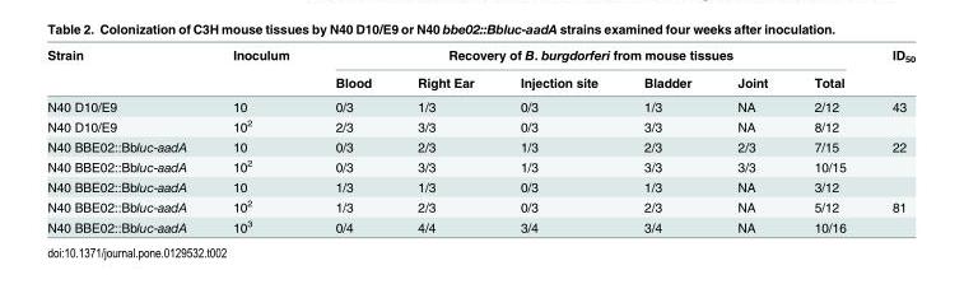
<table><thead><tr><td rowspan="2">Strain</td><td rowspan="2">Inoculum</td><td colspan="6">Recovery of B. burgdorferi from mouse tissues</td><td rowspan="2">ID<sub>50</sub></td></tr><tr><td>Blood</td><td>Right Ear</td><td>Injection site</td><td>Bladder</td><td>Joint</td><td>Total</td></tr></thead><tbody><tr><td>N40 D10/E9</td><td>10</td><td>0/3</td><td>1/3</td><td>0/3</td><td>1/3</td><td>NA</td><td>2/12</td><td>43</td></tr><tr><td>N40 D10/E9</td><td>10<sup>2</sup></td><td>2/3</td><td>3/3</td><td>0/3</td><td>3/3</td><td>NA</td><td>8/12</td><td></td></tr><tr><td>N40 BBE02::Bbluc-aadA</td><td>10</td><td>0/3</td><td>2/3</td><td>1/3</td><td>2/3</td><td>2/3</td><td>7/15</td><td>22</td></tr><tr><td>N40 BBE02::Bbluc-aadA</td><td>10<sup>2</sup></td><td>0/3</td><td>3/3</td><td>1/3</td><td>3/3</td><td>3/3</td><td>10/15</td><td></td></tr><tr><td>N40 BBE02::Bbluc-aadA</td><td>10</td><td>1/3</td><td>1/3</td><td>0/3</td><td>1/3</td><td>NA</td><td>3/12</td><td></td></tr><tr><td>N40 BBE02::Bbluc-aadA</td><td>10<sup>2</sup></td><td>1/3</td><td>2/3</td><td>0/3</td><td>2/3</td><td>NA</td><td>5/12</td><td>81</td></tr><tr><td>N40 BBE02::Bbluc-aadA</td><td>10<sup>3</sup></td><td>0/4</td><td>4/4</td><td>3/4</td><td>3/4</td><td>NA</td><td>10/16</td><td></td></tr></tbody></table>